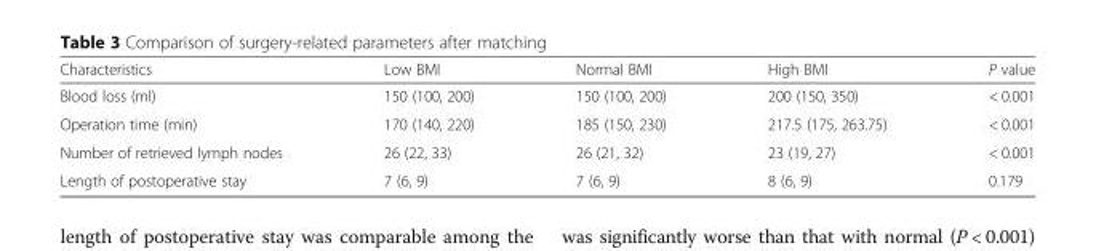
<table><thead><tr><td>Characteristics</td><td>Low BMI</td><td>Normal BMI</td><td>High BMI</td><td>P value</td></tr></thead><tbody><tr><td>Blood loss (ml)</td><td>150 (100, 200)</td><td>150 (100, 200)</td><td>200 (150, 350)</td><td>&lt; 0.001</td></tr><tr><td>Operation time (min)</td><td>170 (140, 220)</td><td>185 (150, 230)</td><td>217.5 (175, 263.75)</td><td>&lt; 0.001</td></tr><tr><td>Number of retrieved lymph nodes</td><td>26 (22, 33)</td><td>26 (21, 32)</td><td>23 (19, 27)</td><td>&lt; 0.001</td></tr><tr><td>Length of postoperative stay</td><td>7 (6, 9)</td><td>7 (6, 9)</td><td>8 (6, 9)</td><td>0.179</td></tr></tbody></table>